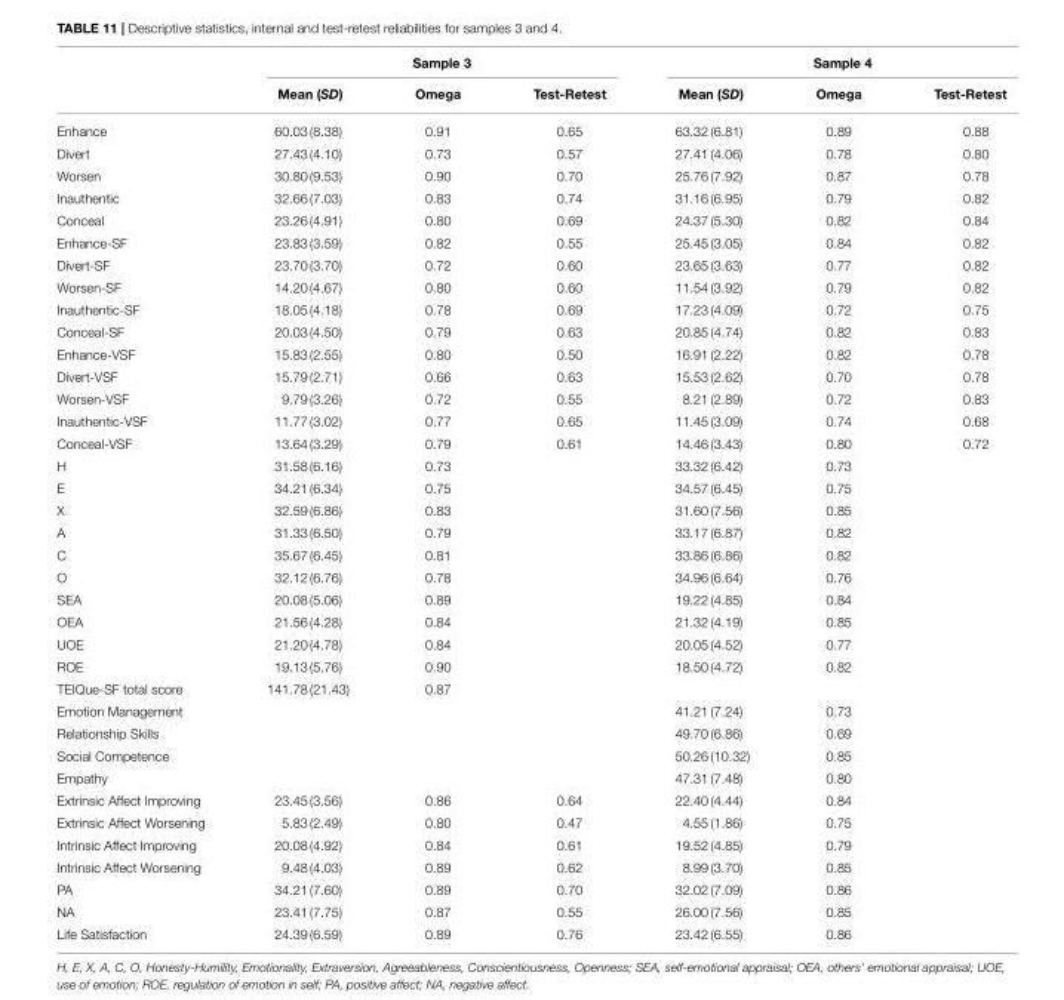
<table><thead><tr><td rowspan="2"></td><td colspan="3">Sample 3</td><td colspan="3">Sample 4</td></tr><tr><td>Mean (SD)</td><td>Omega</td><td>Test-Retest</td><td>Mean (SD)</td><td>Omega</td><td>Test-Retest</td></tr></thead><tbody><tr><td>Enhance</td><td>60.03 (8.38)</td><td>0.91</td><td>0.65</td><td>63.32 (6.81)</td><td>0.89</td><td>0.88</td></tr><tr><td>Divert</td><td>27.43 (4.10)</td><td>0.73</td><td>0.57</td><td>27.41 (4.06)</td><td>0.78</td><td>0.80</td></tr><tr><td>Worsen</td><td>30.80 (9.53)</td><td>0.90</td><td>0.70</td><td>25.76 (7.92)</td><td>0.87</td><td>0.78</td></tr><tr><td>Inauthentic</td><td>32.66 (7.03)</td><td>0.83</td><td>0.74</td><td>31.16 (6.95)</td><td>0.79</td><td>0.82</td></tr><tr><td>Conceal</td><td>23.26 (4.91)</td><td>0.80</td><td>0.69</td><td>24.37 (5.30)</td><td>0.82</td><td>0.84</td></tr><tr><td>Enhance-SF</td><td>23.83 (3.59)</td><td>0.82</td><td>0.55</td><td>25.45 (3.05)</td><td>0.84</td><td>0.82</td></tr><tr><td>Divert-SF</td><td>23.70 (3.70)</td><td>0.72</td><td>0.60</td><td>23.65 (3.63)</td><td>0.77</td><td>0.82</td></tr><tr><td>Worsen-SF</td><td>14.20 (4.67)</td><td>0.80</td><td>0.60</td><td>11.54 (3.92)</td><td>0.79</td><td>0.82</td></tr><tr><td>Inauthentic-SF</td><td>18.05 (4.18)</td><td>0.78</td><td>0.69</td><td>17.23 (4.09)</td><td>0.72</td><td>0.75</td></tr><tr><td>Conceal-SF</td><td>20.03 (4.50)</td><td>0.79</td><td>0.63</td><td>20.85 (4.74)</td><td>0.82</td><td>0.83</td></tr><tr><td>Enhance-VSF</td><td>15.83 (2.55)</td><td>0.80</td><td>0.50</td><td>16.91 (2.22)</td><td>0.82</td><td>0.78</td></tr><tr><td>Divert-VSF</td><td>15.79 (2.71)</td><td>0.66</td><td>0.63</td><td>15.53 (2.62)</td><td>0.70</td><td>0.78</td></tr><tr><td>Worsen-VSF</td><td>9.79 (3.26)</td><td>0.72</td><td>0.55</td><td>8.21 (2.89)</td><td>0.72</td><td>0.83</td></tr><tr><td>Inauthentic-VSF</td><td>11.77 (3.02)</td><td>0.77</td><td>0.65</td><td>11.45 (3.09)</td><td>0.74</td><td>0.68</td></tr><tr><td>Conceal-VSF</td><td>13.64 (3.29)</td><td>0.79</td><td>0.61</td><td>14.46 (3.43)</td><td>0.80</td><td>0.72</td></tr><tr><td>H</td><td>31.58 (6.16)</td><td>0.73</td><td></td><td>33.32 (6.42)</td><td>0.73</td><td></td></tr><tr><td>E</td><td>34.21 (6.34)</td><td>0.75</td><td></td><td>34.57 (6.45)</td><td>0.75</td><td></td></tr><tr><td>X</td><td>32.59 (6.86)</td><td>0.83</td><td></td><td>31.60 (7.56)</td><td>0.85</td><td></td></tr><tr><td>A</td><td>31.33 (6.50)</td><td>0.79</td><td></td><td>33.17 (6.87)</td><td>0.82</td><td></td></tr><tr><td>C</td><td>35.67 (6.45)</td><td>0.81</td><td></td><td>33.86 (6.86)</td><td>0.82</td><td></td></tr><tr><td>O</td><td>32.12 (6.76)</td><td>0.78</td><td></td><td>34.96 (6.64)</td><td>0.76</td><td></td></tr><tr><td>SEA</td><td>20.08 (5.06)</td><td>0.89</td><td></td><td>19.22 (4.85)</td><td>0.84</td><td></td></tr><tr><td>OEA</td><td>21.56 (4.28)</td><td>0.84</td><td></td><td>21.32 (4.19)</td><td>0.85</td><td></td></tr><tr><td>UOE</td><td>21.20 (4.78)</td><td>0.84</td><td></td><td>20.05 (4.52)</td><td>0.77</td><td></td></tr><tr><td>ROE</td><td>19.13 (5.76)</td><td>0.90</td><td></td><td>18.50 (4.72)</td><td>0.82</td><td></td></tr><tr><td>TEIQue-SF total score</td><td>141.78 (21.43)</td><td>0.87</td><td></td><td></td><td></td><td></td></tr><tr><td>Emotion Management</td><td></td><td></td><td></td><td>41.21 (7.24)</td><td>0.73</td><td></td></tr><tr><td>Relationship Skills</td><td></td><td></td><td></td><td>49.70 (6.86)</td><td>0.69</td><td></td></tr><tr><td>Social Competence</td><td></td><td></td><td></td><td>50.26 (10.32)</td><td>0.85</td><td></td></tr><tr><td>Empathy</td><td></td><td></td><td></td><td>47.31 (7.48)</td><td>0.80</td><td></td></tr><tr><td>Extrinsic Affect Improving</td><td>23.45 (3.56)</td><td>0.86</td><td>0.64</td><td>22.40 (4.44)</td><td>0.84</td><td></td></tr><tr><td>Extrinsic Affect Worsening</td><td>5.83 (2.49)</td><td>0.80</td><td>0.47</td><td>4.55 (1.86)</td><td>0.75</td><td></td></tr><tr><td>Intrinsic Affect Improving</td><td>20.08 (4.92)</td><td>0.84</td><td>0.61</td><td>19.52 (4.85)</td><td>0.79</td><td></td></tr><tr><td>Intrinsic Affect Worsening</td><td>9.48 (4.03)</td><td>0.89</td><td>0.62</td><td>8.99 (3.70)</td><td>0.85</td><td></td></tr><tr><td>PA</td><td>34.21 (7.60)</td><td>0.89</td><td>0.70</td><td>32.02 (7.09)</td><td>0.86</td><td></td></tr><tr><td>NA</td><td>23.41 (7.75)</td><td>0.87</td><td>0.55</td><td>26.00 (7.56)</td><td>0.85</td><td></td></tr><tr><td>Life Satisfaction</td><td>24.39 (6.59)</td><td>0.89</td><td>0.76</td><td>23.42 (6.55)</td><td>0.86</td><td></td></tr></tbody></table>